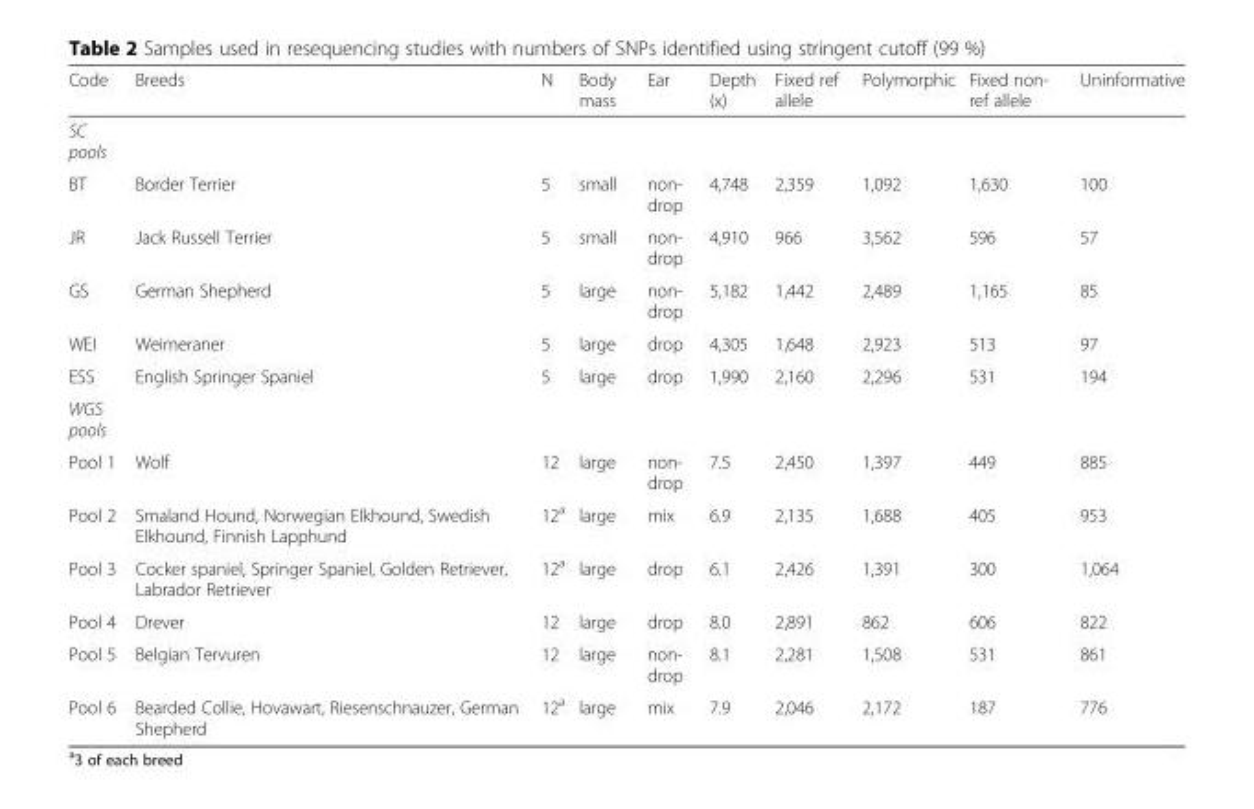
<table><thead><tr><td>Code</td><td>Breeds</td><td>N</td><td>Body mass</td><td>Ear</td><td>Depth (x)</td><td>Fixed ref allele</td><td>Polymorphic</td><td>Fixed non- ref allele</td><td>Uninformative</td></tr></thead><tbody><tr><td colspan="10">SC pools</td></tr><tr><td>BT</td><td>Border Terrier</td><td>5</td><td>small</td><td>non- drop</td><td>4,748</td><td>2,359</td><td>1,092</td><td>1,630</td><td>100</td></tr><tr><td>JR</td><td>Jack Russell Terrier</td><td>5</td><td>small</td><td>non- drop</td><td>4,910</td><td>966</td><td>3,562</td><td>596</td><td>57</td></tr><tr><td>GS</td><td>German Shepherd</td><td>5</td><td>large</td><td>non- drop</td><td>5,182</td><td>1,442</td><td>2,489</td><td>1,165</td><td>85</td></tr><tr><td>WEI</td><td>Weimeraner</td><td>5</td><td>large</td><td>drop</td><td>4,305</td><td>1,648</td><td>2,923</td><td>513</td><td>97</td></tr><tr><td>ESS</td><td>English Springer Spaniel</td><td>5</td><td>large</td><td>drop</td><td>1,990</td><td>2,160</td><td>2,296</td><td>531</td><td>194</td></tr><tr><td colspan="10">WGS pools</td></tr><tr><td>Pool 1</td><td>Wolf</td><td>12</td><td>large</td><td>non- drop</td><td>7.5</td><td>2,450</td><td>1,397</td><td>449</td><td>885</td></tr><tr><td>Pool 2</td><td>Smaland Hound, Norwegian Elkhound, Swedish Elkhound, Finnish Lapphund</td><td>12<sup>a</sup></td><td>large</td><td>mix</td><td>6.9</td><td>2,135</td><td>1,688</td><td>405</td><td>953</td></tr><tr><td>Pool 3</td><td>Cocker spaniel, Springer Spaniel, Golden Retriever, Labrador Retriever</td><td>12<sup>a</sup></td><td>large</td><td>drop</td><td>6.1</td><td>2,426</td><td>1,391</td><td>300</td><td>1,064</td></tr><tr><td>Pool 4</td><td>Drever</td><td>12</td><td>large</td><td>drop</td><td>8.0</td><td>2,891</td><td>862</td><td>606</td><td>822</td></tr><tr><td>Pool 5</td><td>Belgian Tervuren</td><td>12</td><td>large</td><td>non- drop</td><td>8.1</td><td>2,281</td><td>1,508</td><td>531</td><td>861</td></tr><tr><td>Pool 6</td><td>Bearded Collie, Hovawart, Riesenschnauzer, German Shepherd</td><td>12<sup>a</sup></td><td>large</td><td>mix</td><td>7.9</td><td>2,046</td><td>2,172</td><td>187</td><td>776</td></tr></tbody></table>